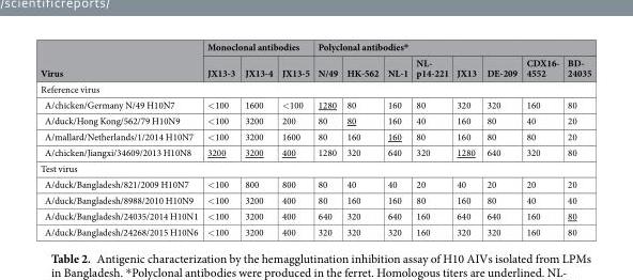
<table><thead><tr><td rowspan="2">Virus</td><td colspan="3">Monoclonal antibodies</td><td colspan="8">Polyclonal antibodies*</td></tr><tr><td>JX13-3</td><td>JX13-4</td><td>JX13-5</td><td>N/49</td><td>HK-562</td><td>NL-1</td><td>NL- p14-221</td><td>JX13</td><td>DE-209</td><td>CDX16- 4552</td><td>BD- 24035</td></tr></thead><tbody><tr><td colspan="12">Reference virus</td></tr><tr><td>A/chicken/Germany N/49 H10N7</td><td>&lt;100</td><td>1600</td><td>&lt;100</td><td>1280</td><td>80</td><td>160</td><td>80</td><td>320</td><td>320</td><td>160</td><td>80</td></tr><tr><td>A/duck/Hong Kong/562/79 H10N9</td><td>&lt;100</td><td>3200</td><td>200</td><td>80</td><td>80</td><td>160</td><td>40</td><td>160</td><td>80</td><td>40</td><td>20</td></tr><tr><td>A/mallard/Netherlands/1/2014 H10N7</td><td>&lt;100</td><td>3200</td><td>1600</td><td>80</td><td>160</td><td>160</td><td>80</td><td>160</td><td>80</td><td>80</td><td>20</td></tr><tr><td>A/chicken/Jiangxi/34609/2013 H10N8</td><td>3200</td><td>3200</td><td>400</td><td>1280</td><td>320</td><td>640</td><td>320</td><td>1280</td><td>640</td><td>320</td><td>80</td></tr><tr><td colspan="12">Test virus</td></tr><tr><td>A/duck/Bangladesh/821/2009 H10N7</td><td>&lt;100</td><td>800</td><td>800</td><td>80</td><td>40</td><td>40</td><td>20</td><td>40</td><td>20</td><td>20</td><td>20</td></tr><tr><td>A/duck/Bangladesh/8988/2010 H10N9</td><td>&lt;100</td><td>3200</td><td>400</td><td>80</td><td>160</td><td>160</td><td>80</td><td>160</td><td>80</td><td>40</td><td>40</td></tr><tr><td>A/duck/Bangladesh/24035/2014 H10N1</td><td>&lt;100</td><td>3200</td><td>400</td><td>640</td><td>320</td><td>640</td><td>160</td><td>640</td><td>640</td><td>160</td><td>80</td></tr><tr><td>A/duck/Bangladesh/24268/2015 H10N6</td><td>&lt;100</td><td>3200</td><td>400</td><td>320</td><td>320</td><td>320</td><td>160</td><td>320</td><td>320</td><td>160</td><td>80</td></tr></tbody></table>